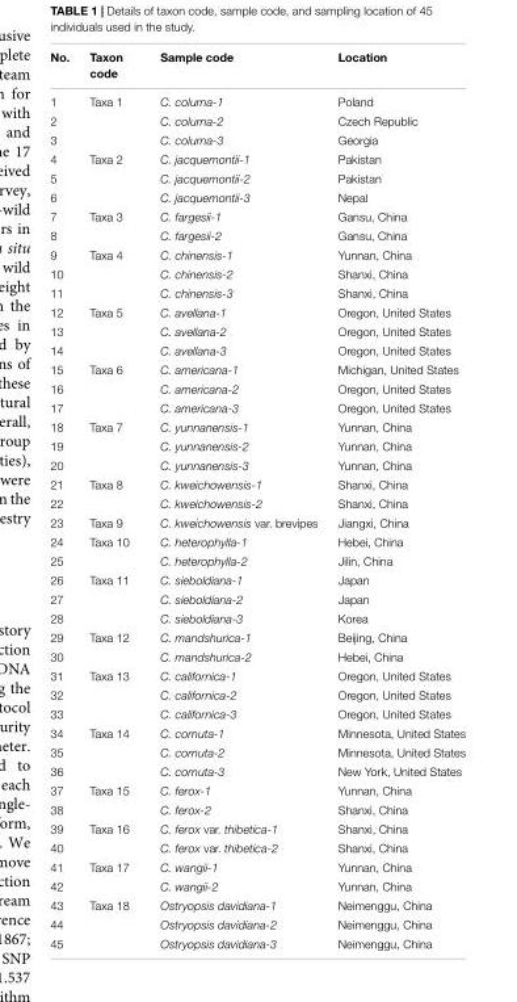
<table><thead><tr><td>No.</td><td>Taxon code</td><td>Sample code</td><td>Location</td></tr></thead><tbody><tr><td>1</td><td>Taxa 1</td><td>C. colurna-1</td><td>Poland</td></tr><tr><td>2</td><td></td><td>C. colurna-2</td><td>Czech Republic</td></tr><tr><td>3</td><td></td><td>C. colurna-3</td><td>Georgia</td></tr><tr><td>4</td><td>Taxa 2</td><td>C. jacquemontii-1</td><td>Pakistan</td></tr><tr><td>5</td><td></td><td>C. jacquemontii-2</td><td>Pakistan</td></tr><tr><td>6</td><td></td><td>C. jacquemontii-3</td><td>Nepal</td></tr><tr><td>7</td><td>Taxa 3</td><td>C. fargesii-1</td><td>Gansu, China</td></tr><tr><td>8</td><td></td><td>C. fargesii-2</td><td>Gansu, China</td></tr><tr><td>9</td><td>Taxa 4</td><td>C. chinensis-1</td><td>Yunnan, China</td></tr><tr><td>10</td><td></td><td>C. chinensis-2</td><td>Shanxi, China</td></tr><tr><td>11</td><td></td><td>C. chinensis-3</td><td>Shanxi, China</td></tr><tr><td>12</td><td>Taxa 5</td><td>C. avellana-1</td><td>Oregon, United States</td></tr><tr><td>13</td><td></td><td>C. avellana-2</td><td>Oregon, United States</td></tr><tr><td>14</td><td></td><td>C. avellana-3</td><td>Oregon, United States</td></tr><tr><td>15</td><td>Taxa 6</td><td>C. americana-1</td><td>Michigan, United States</td></tr><tr><td>16</td><td></td><td>C. americana-2</td><td>Oregon, United States</td></tr><tr><td>17</td><td></td><td>C. americana-3</td><td>Oregon, United States</td></tr><tr><td>18</td><td>Taxa 7</td><td>C. yunnanensis-1</td><td>Yunnan, China</td></tr><tr><td>19</td><td></td><td>C. yunnanensis-2</td><td>Yunnan, China</td></tr><tr><td>20</td><td></td><td>C. yunnanensis-3</td><td>Yunnan, China</td></tr><tr><td>21</td><td>Taxa 8</td><td>C. kweichowensis-1</td><td>Shanxi, China</td></tr><tr><td>22</td><td></td><td>C. kweichowensis-2</td><td>Shanxi, China</td></tr><tr><td>23</td><td>Taxa 9</td><td>C. kweichowensis var. brevipes</td><td>Jiangxi, China</td></tr><tr><td>24</td><td>Taxa 10</td><td>C. heterophylla-1</td><td>Hebei, China</td></tr><tr><td>25</td><td></td><td>C. heterophylla-2</td><td>Jilin, China</td></tr><tr><td>26</td><td>Taxa 11</td><td>C. sieboldiana-1</td><td>Japan</td></tr><tr><td>27</td><td></td><td>C. sieboldiana-2</td><td>Japan</td></tr><tr><td>28</td><td></td><td>C. sieboldiana-3</td><td>Korea</td></tr><tr><td>29</td><td>Taxa 12</td><td>C. mandshurica-1</td><td>Beijing, China</td></tr><tr><td>30</td><td></td><td>C. mandshurica-2</td><td>Hebei, China</td></tr><tr><td>31</td><td>Taxa 13</td><td>C. californica-1</td><td>Oregon, United States</td></tr><tr><td>32</td><td></td><td>C. californica-2</td><td>Oregon, United States</td></tr><tr><td>33</td><td></td><td>C. californica-3</td><td>Oregon, United States</td></tr><tr><td>34</td><td>Taxa 14</td><td>C. cornuta-1</td><td>Minnesota, United States</td></tr><tr><td>35</td><td></td><td>C. cornuta-2</td><td>Minnesota, United States</td></tr><tr><td>36</td><td></td><td>C. cornuta-3</td><td>New York, United States</td></tr><tr><td>37</td><td>Taxa 15</td><td>C. ferox-1</td><td>Yunnan, China</td></tr><tr><td>38</td><td></td><td>C. ferox-2</td><td>Shanxi, China</td></tr><tr><td>39</td><td>Taxa 16</td><td>C. ferox var. thibetica-1</td><td>Shanxi, China</td></tr><tr><td>40</td><td></td><td>C. ferox var. thibetica-2</td><td>Shanxi, China</td></tr><tr><td>41</td><td>Taxa 17</td><td>C. wangii-1</td><td>Yunnan, China</td></tr><tr><td>42</td><td></td><td>C. wangii-2</td><td>Yunnan, China</td></tr><tr><td>43</td><td>Taxa 18</td><td>Ostryopsis davidiana-1</td><td>Neimenggu, China</td></tr><tr><td>44</td><td></td><td>Ostryopsis davidiana-2</td><td>Neimenggu, China</td></tr><tr><td>45</td><td></td><td>Ostryopsis davidiana-3</td><td>Neimenggu, China</td></tr></tbody></table>